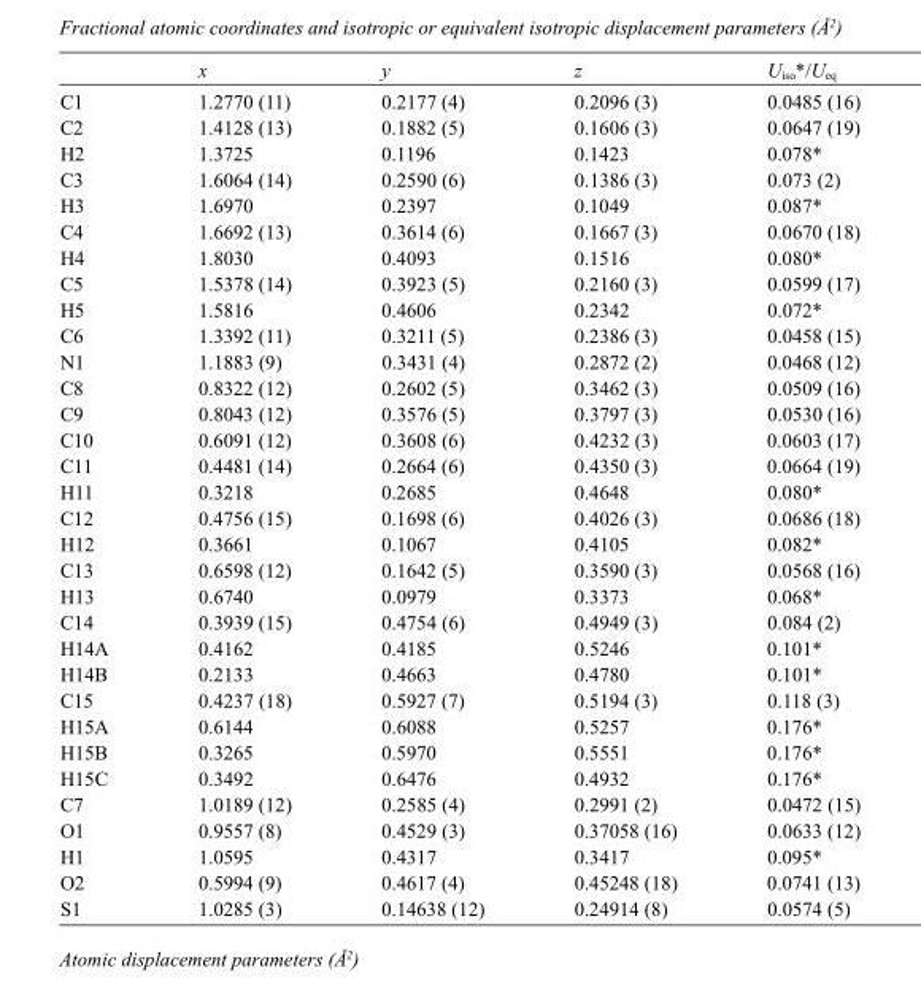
<table><thead><tr><td></td><td>x</td><td>y</td><td>z</td><td>U<sub>iso</sub>*/U<sub>eq</sub></td></tr></thead><tbody><tr><td>C1</td><td>1.2770 (11)</td><td>0.2177 (4)</td><td>0.2096 (3)</td><td>0.0485 (16)</td></tr><tr><td>C2</td><td>1.4128 (13)</td><td>0.1882 (5)</td><td>0.1606 (3)</td><td>0.0647 (19)</td></tr><tr><td>H2</td><td>1.3725</td><td>0.1196</td><td>0.1423</td><td>0.078*</td></tr><tr><td>C3</td><td>1.6064 (14)</td><td>0.2590 (6)</td><td>0.1386 (3)</td><td>0.073 (2)</td></tr><tr><td>H3</td><td>1.6970</td><td>0.2397</td><td>0.1049</td><td>0.087*</td></tr><tr><td>C4</td><td>1.6692 (13)</td><td>0.3614 (6)</td><td>0.1667 (3)</td><td>0.0670 (18)</td></tr><tr><td>H4</td><td>1.8030</td><td>0.4093</td><td>0.1516</td><td>0.080*</td></tr><tr><td>C5</td><td>1.5378 (14)</td><td>0.3923 (5)</td><td>0.2160 (3)</td><td>0.0599 (17)</td></tr><tr><td>H5</td><td>1.5816</td><td>0.4606</td><td>0.2342</td><td>0.072*</td></tr><tr><td>C6</td><td>1.3392 (11)</td><td>0.3211 (5)</td><td>0.2386 (3)</td><td>0.0458 (15)</td></tr><tr><td>N1</td><td>1.1883 (9)</td><td>0.3431 (4)</td><td>0.2872 (2)</td><td>0.0468 (12)</td></tr><tr><td>C8</td><td>0.8322 (12)</td><td>0.2602 (5)</td><td>0.3462 (3)</td><td>0.0509 (16)</td></tr><tr><td>C9</td><td>0.8043 (12)</td><td>0.3576 (5)</td><td>0.3797 (3)</td><td>0.0530 (16)</td></tr><tr><td>C10</td><td>0.6091 (12)</td><td>0.3608 (6)</td><td>0.4232 (3)</td><td>0.0603 (17)</td></tr><tr><td>C11</td><td>0.4481 (14)</td><td>0.2664 (6)</td><td>0.4350 (3)</td><td>0.0664 (19)</td></tr><tr><td>H11</td><td>0.3218</td><td>0.2685</td><td>0.4648</td><td>0.080*</td></tr><tr><td>C12</td><td>0.4756 (15)</td><td>0.1698 (6)</td><td>0.4026 (3)</td><td>0.0686 (18)</td></tr><tr><td>H12</td><td>0.3661</td><td>0.1067</td><td>0.4105</td><td>0.082*</td></tr><tr><td>C13</td><td>0.6598 (12)</td><td>0.1642 (5)</td><td>0.3590 (3)</td><td>0.0568 (16)</td></tr><tr><td>H13</td><td>0.6740</td><td>0.0979</td><td>0.3373</td><td>0.068*</td></tr><tr><td>C14</td><td>0.3939 (15)</td><td>0.4754 (6)</td><td>0.4949 (3)</td><td>0.084 (2)</td></tr><tr><td>H14A</td><td>0.4162</td><td>0.4185</td><td>0.5246</td><td>0.101*</td></tr><tr><td>H14B</td><td>0.2133</td><td>0.4663</td><td>0.4780</td><td>0.101*</td></tr><tr><td>C15</td><td>0.4237 (18)</td><td>0.5927 (7)</td><td>0.5194 (3)</td><td>0.118 (3)</td></tr><tr><td>H15A</td><td>0.6144</td><td>0.6088</td><td>0.5257</td><td>0.176*</td></tr><tr><td>H15B</td><td>0.3265</td><td>0.5970</td><td>0.5551</td><td>0.176*</td></tr><tr><td>H15C</td><td>0.3492</td><td>0.6476</td><td>0.4932</td><td>0.176*</td></tr><tr><td>C7</td><td>1.0189 (12)</td><td>0.2585 (4)</td><td>0.2991 (2)</td><td>0.0472 (15)</td></tr><tr><td>O1</td><td>0.9557 (8)</td><td>0.4529 (3)</td><td>0.37058 (16)</td><td>0.0633 (12)</td></tr><tr><td>H1</td><td>1.0595</td><td>0.4317</td><td>0.3417</td><td>0.095*</td></tr><tr><td>O2</td><td>0.5994 (9)</td><td>0.4617 (4)</td><td>0.45248 (18)</td><td>0.0741 (13)</td></tr><tr><td>S1</td><td>1.0285 (3)</td><td>0.14638 (12)</td><td>0.24914 (8)</td><td>0.0574 (5)</td></tr></tbody></table>